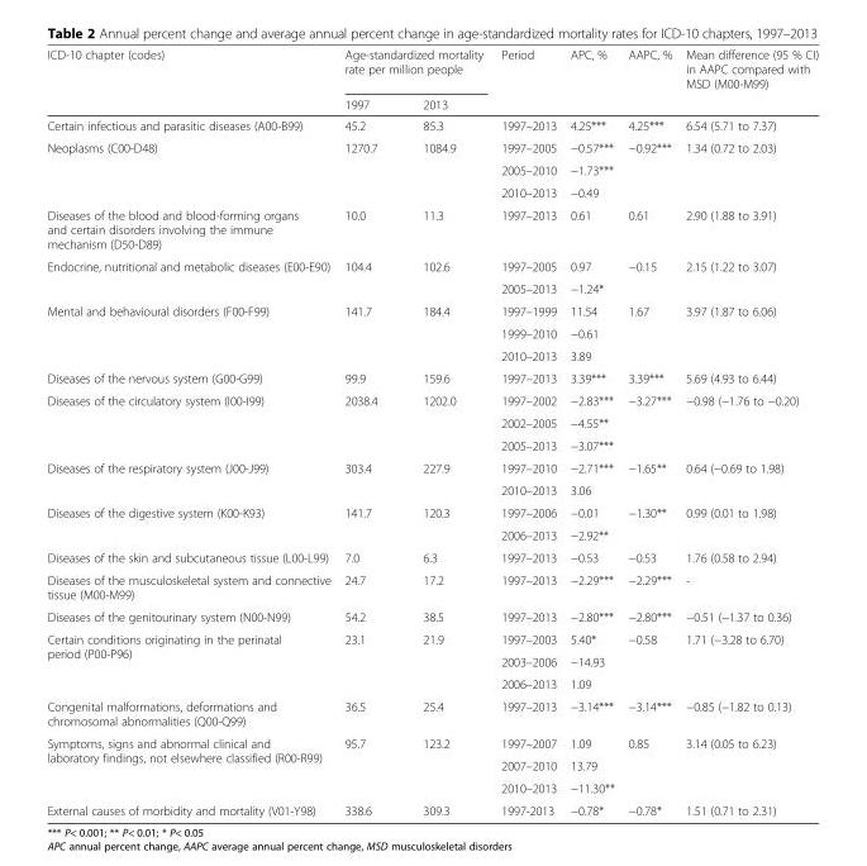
<table><thead><tr><td rowspan="2">ICD-10 chapter (codes)</td><td colspan="2">Age-standardized mortality rate per million people</td><td rowspan="2">Period</td><td rowspan="2">APC, %</td><td rowspan="2">AAPC, %</td><td rowspan="2">Mean difference (95 % CI) in AAPC compared with MSD (M00-M99)</td></tr><tr><td>1997</td><td>2013</td></tr></thead><tbody><tr><td>Certain infectious and parasitic diseases (A00-B99)</td><td>45.2</td><td>85.3</td><td>1997–2013</td><td>4.25***</td><td>4.25***</td><td>6.54 (5.71 to 7.37)</td></tr><tr><td rowspan="3">Neoplasms (C00-D48)</td><td rowspan="3">1270.7</td><td rowspan="3">1084.9</td><td>1997–2005</td><td>−0.57***</td><td rowspan="3">−0.92***</td><td rowspan="3">1.34 (0.72 to 2.03)</td></tr><tr><td>2005–2010</td><td>−1.73***</td></tr><tr><td>2010–2013</td><td>−0.49</td></tr><tr><td>Diseases of the blood and blood-forming organs and certain disorders involving the immune mechanism (D50-D89)</td><td>10.0</td><td>11.3</td><td>1997–2013</td><td>0.61</td><td>0.61</td><td>2.90 (1.88 to 3.91)</td></tr><tr><td rowspan="2">Endocrine, nutritional and metabolic diseases (E00-E90)</td><td rowspan="2">104.4</td><td rowspan="2">102.6</td><td>1997–2005</td><td>0.97</td><td rowspan="2">−0.15</td><td rowspan="2">2.15 (1.22 to 3.07)</td></tr><tr><td>2005–2013</td><td>−1.24*</td></tr><tr><td rowspan="3">Mental and behavioural disorders (F00-F99)</td><td rowspan="3">141.7</td><td rowspan="3">184.4</td><td>1997–1999</td><td>11.54</td><td rowspan="3">1.67</td><td rowspan="3">3.97 (1.87 to 6.06)</td></tr><tr><td>1999–2010</td><td>−0.61</td></tr><tr><td>2010–2013</td><td>3.89</td></tr><tr><td>Diseases of the nervous system (G00-G99)</td><td>99.9</td><td>159.6</td><td>1997–2013</td><td>3.39***</td><td>3.39***</td><td>5.69 (4.93 to 6.44)</td></tr><tr><td rowspan="3">Diseases of the circulatory system (I00-I99)</td><td rowspan="3">2038.4</td><td rowspan="3">1202.0</td><td>1997–2002</td><td>−2.83***</td><td rowspan="3">−3.27***</td><td rowspan="3">−0.98 (−1.76 to −0.20)</td></tr><tr><td>2002–2005</td><td>−4.55**</td></tr><tr><td>2005–2013</td><td>−3.07***</td></tr><tr><td rowspan="2">Diseases of the respiratory system (J00-J99)</td><td rowspan="2">303.4</td><td rowspan="2">227.9</td><td>1997–2010</td><td>−2.71***</td><td rowspan="2">−1.65**</td><td rowspan="2">0.64 (−0.69 to 1.98)</td></tr><tr><td>2010–2013</td><td>3.06</td></tr><tr><td rowspan="2">Diseases of the digestive system (K00-K93)</td><td rowspan="2">141.7</td><td rowspan="2">120.3</td><td>1997–2006</td><td>−0.01</td><td rowspan="2">−1.30**</td><td rowspan="2">0.99 (0.01 to 1.98)</td></tr><tr><td>2006–2013</td><td>−2.92**</td></tr><tr><td>Diseases of the skin and subcutaneous tissue (L00-L99)</td><td>7.0</td><td>6.3</td><td>1997–2013</td><td>−0.53</td><td>−0.53</td><td>1.76 (0.58 to 2.94)</td></tr><tr><td>Diseases of the musculoskeletal system and connective tissue (M00-M99)</td><td>24.7</td><td>17.2</td><td>1997–2013</td><td>−2.29***</td><td>−2.29***</td><td>-</td></tr><tr><td>Diseases of the genitourinary system (N00-N99)</td><td>54.2</td><td>38.5</td><td>1997–2013</td><td>−2.80***</td><td>−2.80***</td><td>−0.51 (−1.37 to 0.36)</td></tr><tr><td rowspan="3">Certain conditions originating in the perinatal period (P00-P96)</td><td rowspan="3">23.1</td><td rowspan="3">21.9</td><td>1997–2003</td><td>5.40*</td><td rowspan="3">−0.58</td><td rowspan="3">1.71 (−3.28 to 6.70)</td></tr><tr><td>2003–2006</td><td>−14.93</td></tr><tr><td>2006–2013</td><td>1.09</td></tr><tr><td>Congenital malformations, deformations and chromosomal abnormalities (Q00-Q99)</td><td>36.5</td><td>25.4</td><td>1997–2013</td><td>−3.14***</td><td>−3.14***</td><td>−0.85 (−1.82 to 0.13)</td></tr><tr><td rowspan="3">Symptoms, signs and abnormal clinical and laboratory findings, not elsewhere classified (R00-R99)</td><td rowspan="3">95.7</td><td rowspan="3">123.2</td><td>1997–2007</td><td>1.09</td><td rowspan="3">0.85</td><td rowspan="3">3.14 (0.05 to 6.23)</td></tr><tr><td>2007–2010</td><td>13.79</td></tr><tr><td>2010–2013</td><td>−11.30**</td></tr><tr><td>External causes of morbidity and mortality (V01-Y98)</td><td>338.6</td><td>309.3</td><td>1997-2013</td><td>−0.78*</td><td>−0.78*</td><td>1.51 (0.71 to 2.31)</td></tr></tbody></table>